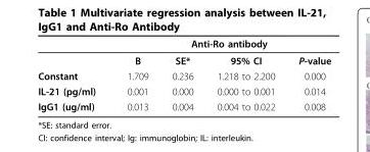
<table><thead><tr><td rowspan="2"></td><td colspan="4">Anti-Ro antibody</td></tr><tr><td>B</td><td>SE*</td><td>95% CI</td><td>P-value</td></tr></thead><tbody><tr><td>Constant</td><td>1.709</td><td>0.236</td><td>1.218 to 2.200</td><td>0.000</td></tr><tr><td>IL-21 (pg/ml)</td><td>0.001</td><td>0.000</td><td>0.000 to 0.001</td><td>0.014</td></tr><tr><td>IgG1 (ug/ml)</td><td>0.013</td><td>0.004</td><td>0.004 to 0.022</td><td>0.008</td></tr></tbody></table>